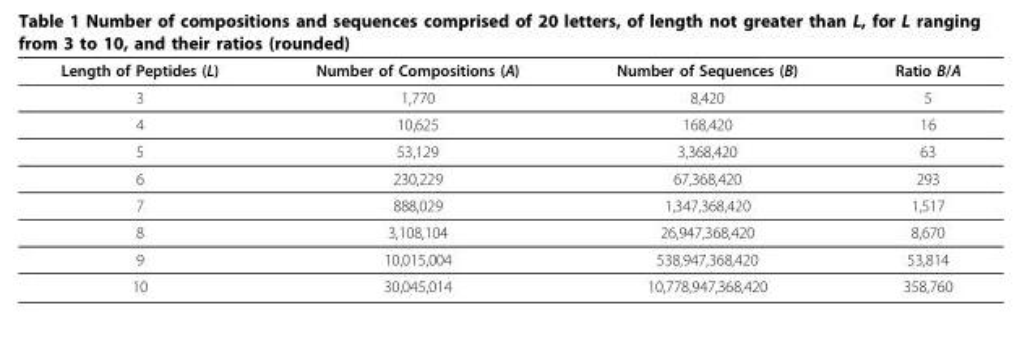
<table><thead><tr><td>Length of Peptides (L)</td><td>Number of Compositions (A)</td><td>Number of Sequences (B)</td><td>Ratio B/A</td></tr></thead><tbody><tr><td>3</td><td>1,770</td><td>8,420</td><td>5</td></tr><tr><td>4</td><td>10,625</td><td>168,420</td><td>16</td></tr><tr><td>5</td><td>53,129</td><td>3,368,420</td><td>63</td></tr><tr><td>6</td><td>230,229</td><td>67,368,420</td><td>293</td></tr><tr><td>7</td><td>888,029</td><td>1,347,368,420</td><td>1,517</td></tr><tr><td>8</td><td>3,108,104</td><td>26,947,368,420</td><td>8,670</td></tr><tr><td>9</td><td>10,015,004</td><td>538,947,368,420</td><td>53,814</td></tr><tr><td>10</td><td>30,045,014</td><td>10,778,947,368,420</td><td>358,760</td></tr></tbody></table>